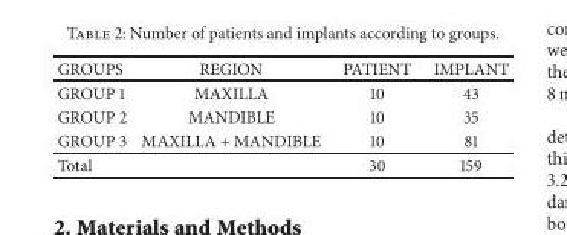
<table><thead><tr><td>GROUPS</td><td>REGION</td><td>PATIENT</td><td>IMPLANT</td></tr></thead><tbody><tr><td>GROUP 1</td><td>MAXILLA</td><td>10</td><td>43</td></tr><tr><td>GROUP 2</td><td>MANDIBLE</td><td>10</td><td>35</td></tr><tr><td>GROUP 3</td><td>MAXILLA + MANDIBLE</td><td>10</td><td>81</td></tr><tr><td>Total</td><td></td><td>30</td><td>159</td></tr></tbody></table>